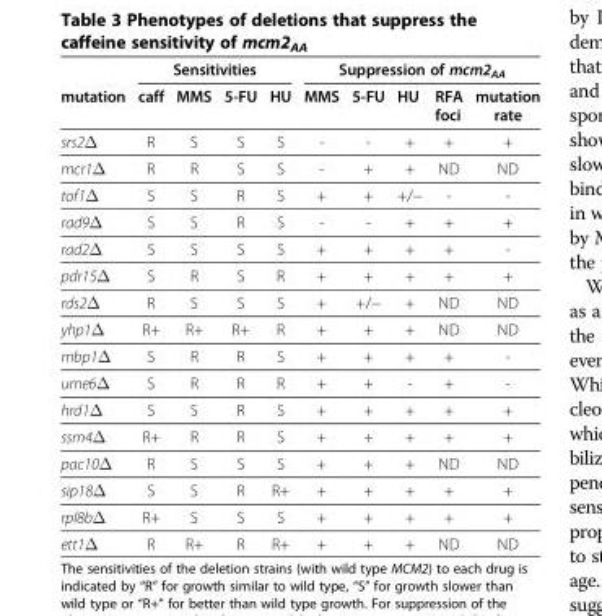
<table><thead><tr><td rowspan="2">mutation</td><td colspan="4">Sensitivities</td><td colspan="5">Suppression of mcm2<sub>AA</sub></td></tr><tr><td>caff</td><td>MMS</td><td>5-FU</td><td>HU</td><td>MMS</td><td>5-FU</td><td>HU</td><td>RFA foci</td><td>mutation rate</td></tr></thead><tbody><tr><td>srs2Δ</td><td>R</td><td>S</td><td>S</td><td>S</td><td>-</td><td>-</td><td>+</td><td>+</td><td>+</td></tr><tr><td>mcr1Δ</td><td>R</td><td>R</td><td>S</td><td>S</td><td>-</td><td>+</td><td>+</td><td>ND</td><td>ND</td></tr><tr><td>tof1Δ</td><td>S</td><td>S</td><td>R</td><td>S</td><td>+</td><td>+</td><td>+/−</td><td>-</td><td>-</td></tr><tr><td>rad9Δ</td><td>S</td><td>S</td><td>R</td><td>S</td><td>-</td><td>-</td><td>+</td><td>+</td><td>+</td></tr><tr><td>rad2Δ</td><td>S</td><td>S</td><td>S</td><td>S</td><td>+</td><td>+</td><td>+</td><td>+</td><td>-</td></tr><tr><td>pdr15Δ</td><td>S</td><td>R</td><td>S</td><td>R</td><td>+</td><td>+</td><td>+</td><td>+</td><td>+</td></tr><tr><td>rds2Δ</td><td>R</td><td>S</td><td>S</td><td>S</td><td>+</td><td>+/−</td><td>+</td><td>ND</td><td>ND</td></tr><tr><td>yhp1Δ</td><td>R+</td><td>R+</td><td>R+</td><td>R</td><td>+</td><td>+</td><td>+</td><td>ND</td><td>ND</td></tr><tr><td>mbp1Δ</td><td>S</td><td>R</td><td>R</td><td>S</td><td>+</td><td>+</td><td>+</td><td>+</td><td>-</td></tr><tr><td>ume6Δ</td><td>S</td><td>R</td><td>R</td><td>R</td><td>+</td><td>+</td><td>-</td><td>+</td><td>-</td></tr><tr><td>hrd1Δ</td><td>S</td><td>S</td><td>R</td><td>S</td><td>+</td><td>+</td><td>+</td><td>+</td><td>+</td></tr><tr><td>ssm4Δ</td><td>R+</td><td>R</td><td>R</td><td>S</td><td>+</td><td>+</td><td>+</td><td>+</td><td>+</td></tr><tr><td>pac10Δ</td><td>R</td><td>S</td><td>S</td><td>S</td><td>+</td><td>+</td><td>+</td><td>ND</td><td>ND</td></tr><tr><td>sip18Δ</td><td>S</td><td>S</td><td>R</td><td>R+</td><td>+</td><td>+</td><td>+</td><td>+</td><td>+</td></tr><tr><td>rpl8bΔ</td><td>R+</td><td>S</td><td>S</td><td>S</td><td>+</td><td>+</td><td>+</td><td>+</td><td>+</td></tr><tr><td>ett1Δ</td><td>R</td><td>R+</td><td>R</td><td>R+</td><td>+</td><td>+</td><td>+</td><td>ND</td><td>ND</td></tr></tbody></table>